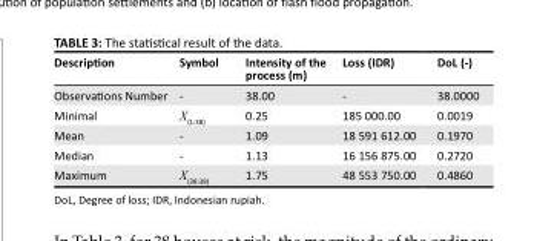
<table><thead><tr><td>Description</td><td>Symbol</td><td>Intensity of the process (m)</td><td>Loss (IDR)</td><td>DoL (-)</td></tr></thead><tbody><tr><td>Observations Number</td><td>-</td><td>38.00</td><td>-</td><td>38.0000</td></tr><tr><td>Minimal</td><td>X<sub>(1:38)</sub></td><td>0.25</td><td>185 000.00</td><td>0.0019</td></tr><tr><td>Mean</td><td>-</td><td>1.09</td><td>18 591 612.00</td><td>0.1970</td></tr><tr><td>Median</td><td>-</td><td>1.13</td><td>16 156 875.00</td><td>0.2720</td></tr><tr><td>Maximum</td><td>X<sub>(38:38)</sub></td><td>1.75</td><td>48 553 750.00</td><td>0.4860</td></tr></tbody></table>